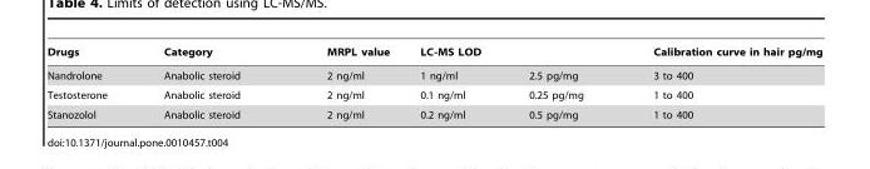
<table><thead><tr><td rowspan="2">Drugs Nandrolone</td><td rowspan="2">Category Anabolic steroid</td><td rowspan="2">MRPL value 2 ng/ml</td><td colspan="2">LC-MS LOD</td><td rowspan="2">Calibration curve in hair pg/mg 3 to 400</td></tr><tr><td>1 ng/ml</td><td>2.5 pg/mg</td></tr></thead><tbody><tr><td>Testosterone</td><td>Anabolic steroid</td><td>2 ng/ml</td><td>0.1 ng/ml</td><td>0.25 pg/mg</td><td>1 to 400</td></tr><tr><td>Stanozolol</td><td>Anabolic steroid</td><td>2 ng/ml</td><td>0.2 ng/ml</td><td>0.5 pg/mg</td><td>1 to 400</td></tr></tbody></table>